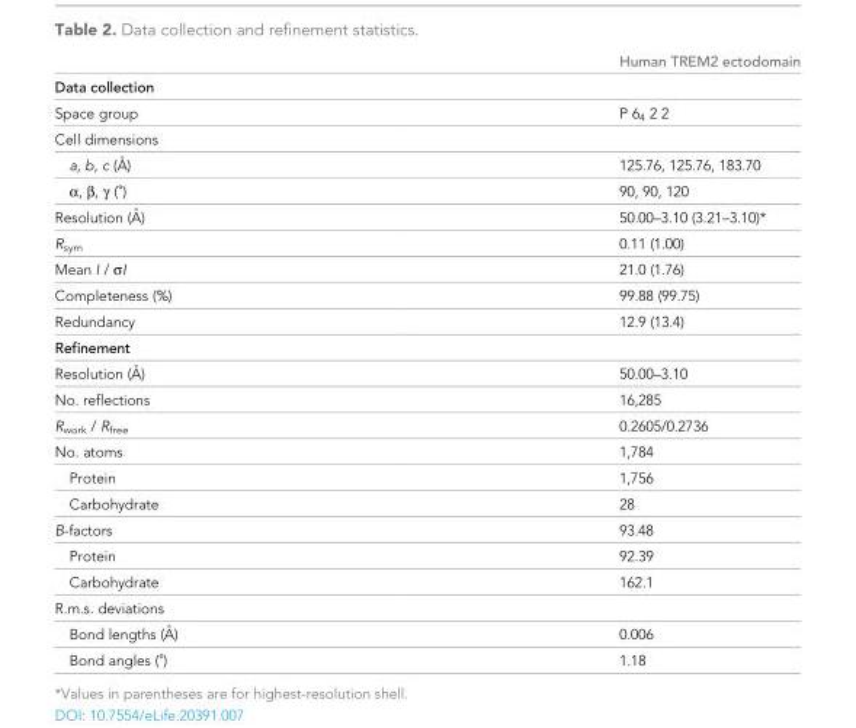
<table><thead><tr><td></td><td>Human TREM2 ectodomain</td></tr></thead><tbody><tr><td colspan="2">Data collection</td></tr><tr><td>Space group</td><td>P 6<sub>4</sub> 2 2</td></tr><tr><td colspan="2">Cell dimensions</td></tr><tr><td>a, b, c (A˚ )</td><td>125.76, 125.76, 183.70</td></tr><tr><td>α, β, γ (˚)</td><td>90, 90, 120</td></tr><tr><td>Resolution (A˚ )</td><td>50.00–3.10 (3.21–3.10)*</td></tr><tr><td>R<sub>sym</sub></td><td>0.11 (1.00)</td></tr><tr><td>Mean I / σI</td><td>21.0 (1.76)</td></tr><tr><td>Completeness (%)</td><td>99.88 (99.75)</td></tr><tr><td>Redundancy</td><td>12.9 (13.4)</td></tr><tr><td colspan="2">Refinement</td></tr><tr><td>Resolution (A˚ )</td><td>50.00–3.10</td></tr><tr><td>No. reflections</td><td>16,285</td></tr><tr><td>R<sub>work</sub> / R<sub>free</sub></td><td>0.2605/0.2736</td></tr><tr><td>No. atoms</td><td>1,784</td></tr><tr><td>Protein</td><td>1,756</td></tr><tr><td>Carbohydrate</td><td>28</td></tr><tr><td>B-factors</td><td>93.48</td></tr><tr><td>Protein</td><td>92.39</td></tr><tr><td>Carbohydrate</td><td>162.1</td></tr><tr><td colspan="2">R.m.s. deviations</td></tr><tr><td>Bond lengths (A˚ )</td><td>0.006</td></tr><tr><td>Bond angles (˚)</td><td>1.18</td></tr></tbody></table>